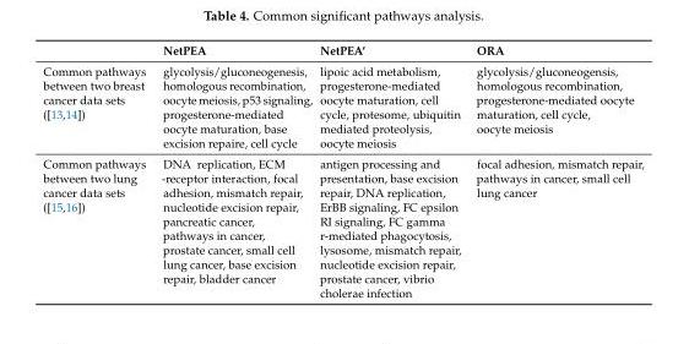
<table><thead><tr><td></td><td>NetPEA</td><td>NetPEA’</td><td>ORA</td></tr></thead><tbody><tr><td>Common pathways between two breast cancer data sets ([13,14])</td><td>glycolysis/gluconeogenesis, homologous recombination, oocyte meiosis, p53 signaling, progesterone-mediated oocyte maturation, base excision repaire, cell cycle</td><td>lipoic acid metabolism, progesterone-mediated oocyte maturation, cell cycle, protesome, ubiquitin mediated proteolysis, oocyte meiosis</td><td>glycolysis/gluconeogensis, homologous recombination, progesterone-mediated oocyte maturation, cell cycle, oocyte meiosis</td></tr><tr><td>Common pathways between two lung cancer data sets ([15,16])</td><td>DNA replication, ECM -receptor interaction, focal adhesion, mismatch repair, nucleotide excision repair, pancreatic cancer, pathways in cancer, prostate cancer, small cell lung cancer, base excision repair, bladder cancer</td><td>antigen processing and presentation, base excision repair, DNA replication, ErBB signaling, FC epsilon RI signaling, FC gamma r-mediated phagocytosis, lysosome, mismatch repair, nucleotide excision repair, prostate cancer, vibrio cholerae infection</td><td>focal adhesion, mismatch repair, pathways in cancer, small cell lung cancer</td></tr></tbody></table>